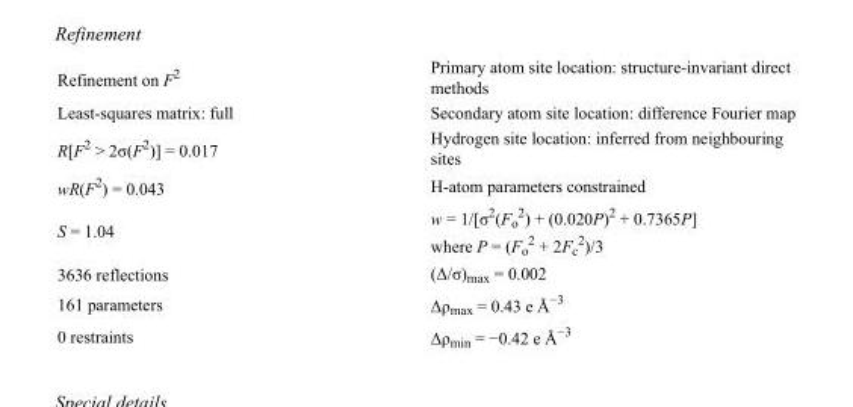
<table><tbody><tr><td>Refinement on F<sup>2</sup></td><td>Primary atom site location: structure-invariant direct methods</td></tr><tr><td>Least-squares matrix: full</td><td>Secondary atom site location: difference Fourier map</td></tr><tr><td>R[F<sup>2</sup> &gt; 2σ(F<sup>2</sup>)] = 0.017</td><td>Hydrogen site location: inferred from neighbouring sites</td></tr><tr><td>wR(F<sup>2</sup>) = 0.043</td><td>H-atom parameters constrained</td></tr><tr><td>S = 1.04</td><td>w = 1/[σ<sup>2</sup>(F<sub>o</sub> <sup>2</sup>) + (0.020P)<sup>2</sup> + 0.7365P] where P = (F<sub>o</sub> <sup>2</sup> + 2F<sub>c</sub> <sup>2</sup>)/3</td></tr><tr><td>3636 reflections</td><td>(Δ/σ)<sub>max</sub> = 0.002</td></tr><tr><td>161 parameters</td><td>Δρ<sub>max</sub> = 0.43 e Å<sup>−3</sup></td></tr><tr><td>0 restraints</td><td>Δρ<sub>min</sub> = −0.42 e Å<sup>−3</sup></td></tr></tbody></table>